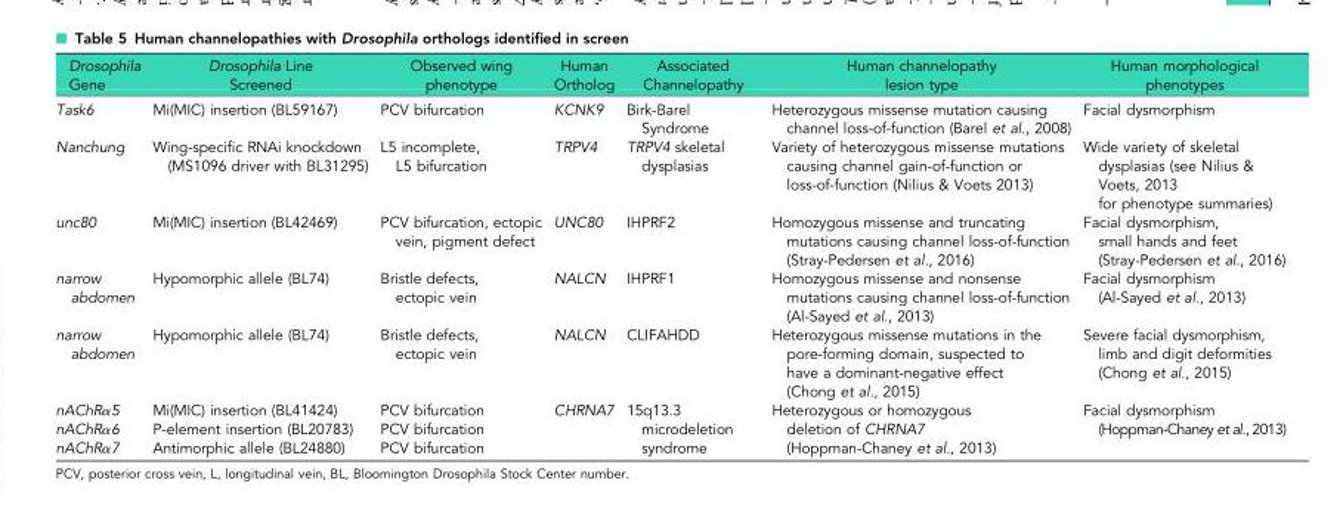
<table><thead><tr><td>Drosophila Gene</td><td>Drosophila Line Screened</td><td>Observed wing phenotype</td><td>Human Ortholog</td><td>Associated Channelopathy</td><td>Human channelopathy lesion type</td><td>Human morphological phenotypes</td></tr></thead><tbody><tr><td>Task6</td><td>Mi(MIC) insertion (BL59167)</td><td>PCV bifurcation</td><td>KCNK9</td><td>Birk-Barel Syndrome</td><td>Heterozygous missense mutation causing channel loss-of-function (Barel et al., 2008)</td><td>Facial dysmorphism</td></tr><tr><td>Nanchung</td><td>Wing-specific RNAi knockdown (MS1096 driver with BL31295)</td><td>L5 incomplete, L5 bifurcation</td><td>TRPV4</td><td>TRPV4 skeletal dysplasias</td><td>Variety of heterozygous missense mutations causing channel gain-of-function or loss-of-function (Nilius &amp; Voets 2013)</td><td>Wide variety of skeletal dysplasias (see Nilius &amp; Voets, 2013 for phenotype summaries)</td></tr><tr><td>unc80</td><td>Mi(MIC) insertion (BL42469)</td><td>PCV bifurcation, ectopic vein, pigment defect</td><td>UNC80</td><td>IHPRF2</td><td>Homozygous missense and truncating mutations causing channel loss-of-function (Stray-Pedersen et al., 2016)</td><td>Facial dysmorphism, small hands and feet (Stray-Pedersen et al., 2016)</td></tr><tr><td>narrow abdomen</td><td>Hypomorphic allele (BL74)</td><td>Bristle defects, ectopic vein</td><td>NALCN</td><td>IHPRF1</td><td>Homozygous missense and nonsense mutations causing channel loss-of-function (Al-Sayed et al., 2013)</td><td>Facial dysmorphism (Al-Sayed et al., 2013)</td></tr><tr><td>narrow abdomen</td><td>Hypomorphic allele (BL74)</td><td>Bristle defects, ectopic vein</td><td>NALCN</td><td>CLIFAHDD</td><td>Heterozygous missense mutations in the pore-forming domain, suspected to have a dominant-negative effect (Chong et al., 2015)</td><td>Severe facial dysmorphism, limb and digit deformities (Chong et al., 2015)</td></tr><tr><td>nAChRα5</td><td>Mi(MIC) insertion (BL41424)</td><td>PCV bifurcation</td><td rowspan="3">CHRNA7</td><td rowspan="3">15q13.3 microdeletion syndrome</td><td rowspan="3">Heterozygous or homozygous deletion of CHRNA7 (Hoppman-Chaney et al., 2013)</td><td rowspan="3">Facial dysmorphism (Hoppman-Chaney et al., 2013)</td></tr><tr><td>nAChRα6</td><td>P-element insertion (BL20783)</td><td>PCV bifurcation</td></tr><tr><td>nAChRα7</td><td>Antimorphic allele (BL24880)</td><td>PCV bifurcation</td></tr></tbody></table>